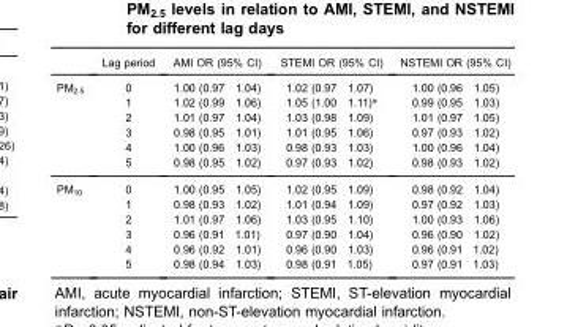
<table><thead><tr><td></td><td>Lag period</td><td>AMI OR (95% CI)</td><td>STEMI OR (95% CI)</td><td>NSTEMI OR (95% CI)</td></tr></thead><tbody><tr><td rowspan="6">PM<sub>2.5</sub></td><td>0</td><td>1.00 (0.97 1.04)</td><td>1.02 (0.97 1.07)</td><td>1.00 (0.96 1.05)</td></tr><tr><td>1</td><td>1.02 (0.99 1.06)</td><td>1.05 (1.00 1.11)*</td><td>0.99 (0.95 1.03)</td></tr><tr><td>2</td><td>1.01 (0.97 1.04)</td><td>1.03 (0.98 1.09)</td><td>1.01 (0.97 1.05)</td></tr><tr><td>3</td><td>0.98 (0.95 1.01)</td><td>1.01 (0.95 1.06)</td><td>0.97 (0.93 1.02)</td></tr><tr><td>4</td><td>1.00 (0.96 1.03)</td><td>0.98 (0.93 1.03)</td><td>1.00 (0.96 1.04)</td></tr><tr><td>5</td><td>0.98 (0.95 1.02)</td><td>0.97 (0.93 1.02)</td><td>0.98 (0.93 1.02)</td></tr><tr><td rowspan="6">PM<sub>10</sub></td><td>0</td><td>1.00 (0.95 1.05)</td><td>1.02 (0.95 1.09)</td><td>0.98 (0.92 1.04)</td></tr><tr><td>1</td><td>0.98 (0.93 1.02)</td><td>1.01 (0.94 1.09)</td><td>0.97 (0.92 1.03)</td></tr><tr><td>2</td><td>1.01 (0.97 1.06)</td><td>1.03 (0.95 1.10)</td><td>1.00 (0.93 1.06)</td></tr><tr><td>3</td><td>0.96 (0.91 1.01)</td><td>0.97 (0.90 1.04)</td><td>0.96 (0.90 1.02)</td></tr><tr><td>4</td><td>0.96 (0.92 1.01)</td><td>0.96 (0.90 1.03)</td><td>0.96 (0.91 1.02)</td></tr><tr><td>5</td><td>0.98 (0.94 1.03)</td><td>0.98 (0.91 1.05)</td><td>0.97 (0.91 1.03)</td></tr></tbody></table>